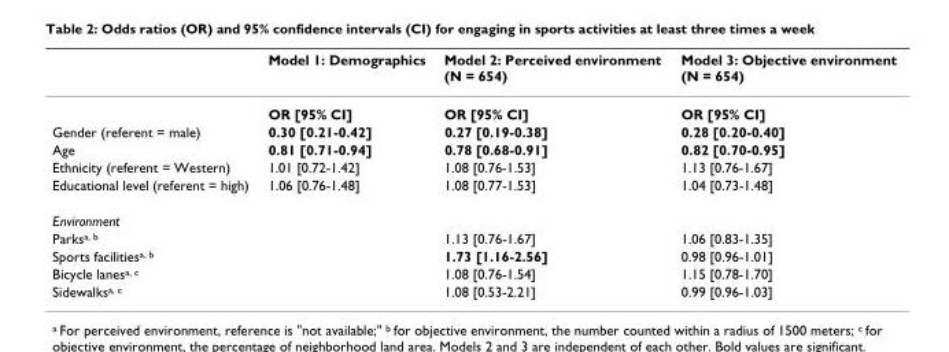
<table><thead><tr><td></td><td>Model 1: Demographics</td><td>Model 2: Perceived environment (N = 654)</td><td>Model 3: Objective environment (N = 654)</td></tr></thead><tbody><tr><td></td><td>OR [95% CI]</td><td>OR [95% CI]</td><td>OR [95% CI]</td></tr><tr><td>Gender (referent = male)</td><td>0.30 [0.21-0.42]</td><td>0.27 [0.19-0.38]</td><td>0.28 [0.20-0.40]</td></tr><tr><td>Age</td><td>0.81 [0.71-0.94]</td><td>0.78 [0.68-0.91]</td><td>0.82 [0.70-0.95]</td></tr><tr><td>Ethnicity (referent = Western)</td><td>1.01 [0.72-1.42]</td><td>1.08 [0.76-1.53]</td><td>1.13 [0.76-1.67]</td></tr><tr><td>Educational level (referent = high)</td><td>1.06 [0.76-1.48]</td><td>1.08 [0.77-1.53]</td><td>1.04 [0.73-1.48]</td></tr><tr><td colspan="4">Environment</td></tr><tr><td>Parks<sup>a, b</sup></td><td></td><td>1.13 [0.76-1.67]</td><td>1.06 [0.83-1.35]</td></tr><tr><td>Sports facilities<sup>a, b</sup></td><td></td><td>1.73 [1.16-2.56]</td><td>0.98 [0.96-1.01]</td></tr><tr><td>Bicycle lanes<sup>a, c</sup></td><td></td><td>1.08 [0.76-1.54]</td><td>1.15 [0.78-1.70]</td></tr><tr><td>Sidewalks<sup>a, c</sup></td><td></td><td>1.08 [0.53-2.21]</td><td>0.99 [0.96-1.03]</td></tr></tbody></table>